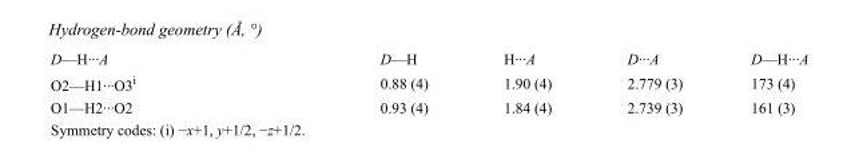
<table><tbody><tr><td>D—H···A</td><td>D—H</td><td>H···A</td><td>D···A</td><td>D—H···A</td></tr><tr><td>O2—H1···O3<sup>i</sup></td><td>0.88 (4)</td><td>1.90 (4)</td><td>2.779 (3)</td><td>173 (4)</td></tr><tr><td>O1—H2···O2</td><td>0.93 (4)</td><td>1.84 (4)</td><td>2.739 (3)</td><td>161 (3)</td></tr></tbody></table>